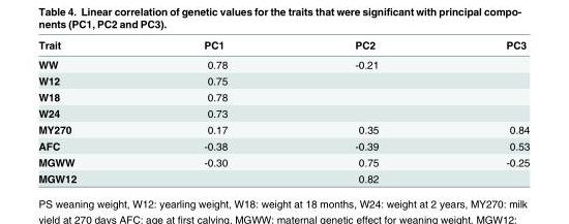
<table><thead><tr><td>Trait</td><td>PC1</td><td>PC2</td><td>PC3</td></tr></thead><tbody><tr><td>WW</td><td>0.78</td><td>-0.21</td><td></td></tr><tr><td>W12</td><td>0.75</td><td></td><td></td></tr><tr><td>W18</td><td>0.78</td><td></td><td></td></tr><tr><td>W24</td><td>0.73</td><td></td><td></td></tr><tr><td>MY270</td><td>0.17</td><td>0.35</td><td>0.84</td></tr><tr><td>AFC</td><td>-0.38</td><td>-0.39</td><td>0.53</td></tr><tr><td>MGWW</td><td>-0.30</td><td>0.75</td><td>-0.25</td></tr><tr><td>MGW12</td><td></td><td>0.82</td><td></td></tr></tbody></table>